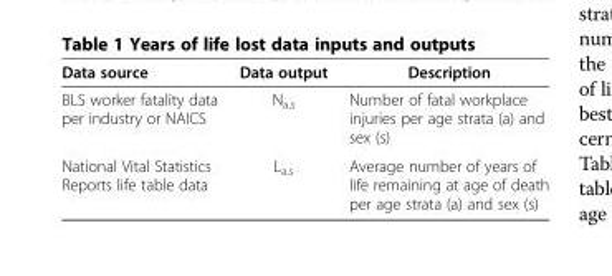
<table><thead><tr><td>Data source</td><td>Data output</td><td>Description</td></tr></thead><tbody><tr><td>BLS worker fatality data per industry or NAICS</td><td>N<sub>a,s</sub></td><td>Number of fatal workplace injuries per age strata (a) and sex (s)</td></tr><tr><td>National Vital Statistics Reports life table data</td><td>L<sub>a,s</sub></td><td>Average number of years of life remaining at age of death per age strata (a) and sex (s)</td></tr></tbody></table>